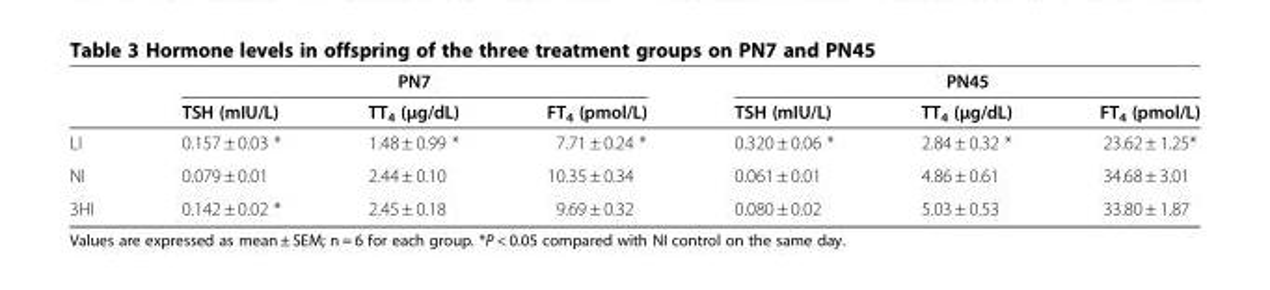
<table><thead><tr><td rowspan="2"></td><td colspan="3">PN7</td><td colspan="3">PN45</td></tr><tr><td>TSH (mIU/L)</td><td>TT<sub>4</sub> (μg/dL)</td><td>FT<sub>4</sub> (pmol/L)</td><td>TSH (mIU/L)</td><td>TT<sub>4</sub> (μg/dL)</td><td>FT<sub>4</sub> (pmol/L)</td></tr></thead><tbody><tr><td>LI</td><td>0.157 ± 0.03 *</td><td>1.48 ± 0.99 *</td><td>7.71 ± 0.24 *</td><td>0.320 ± 0.06 *</td><td>2.84 ± 0.32 *</td><td>23.62 ± 1.25*</td></tr><tr><td>NI</td><td>0.079 ± 0.01</td><td>2.44 ± 0.10</td><td>10.35 ± 0.34</td><td>0.061 ± 0.01</td><td>4.86 ± 0.61</td><td>34.68 ± 3.01</td></tr><tr><td>3HI</td><td>0.142 ± 0.02 *</td><td>2.45 ± 0.18</td><td>9.69 ± 0.32</td><td>0.080 ± 0.02</td><td>5.03 ± 0.53</td><td>33.80 ± 1.87</td></tr></tbody></table>